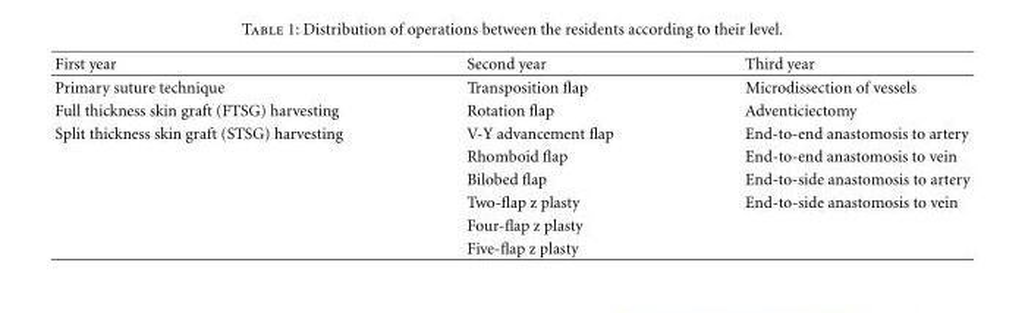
<table><thead><tr><td>First year</td><td>Second year</td><td>Third year</td></tr></thead><tbody><tr><td>Primary suture technique</td><td>Transposition flap</td><td>Microdissection of vessels</td></tr><tr><td>Full thickness skin graft (FTSG) harvesting</td><td>Rotation flap</td><td>Adventiciectomy</td></tr><tr><td rowspan="6">Split thickness skin graft (STSG) harvesting</td><td>V-Y advancement flap</td><td>End-to-end anastomosis to artery</td></tr><tr><td>Rhomboid flap</td><td>End-to-end anastomosis to vein</td></tr><tr><td>Bilobed flap</td><td>End-to-side anastomosis to artery</td></tr><tr><td>Two-flap z plasty</td><td>End-to-side anastomosis to vein</td></tr><tr><td>Four-flap z plasty</td><td></td></tr><tr><td>Five-flap z plasty</td><td></td></tr></tbody></table>